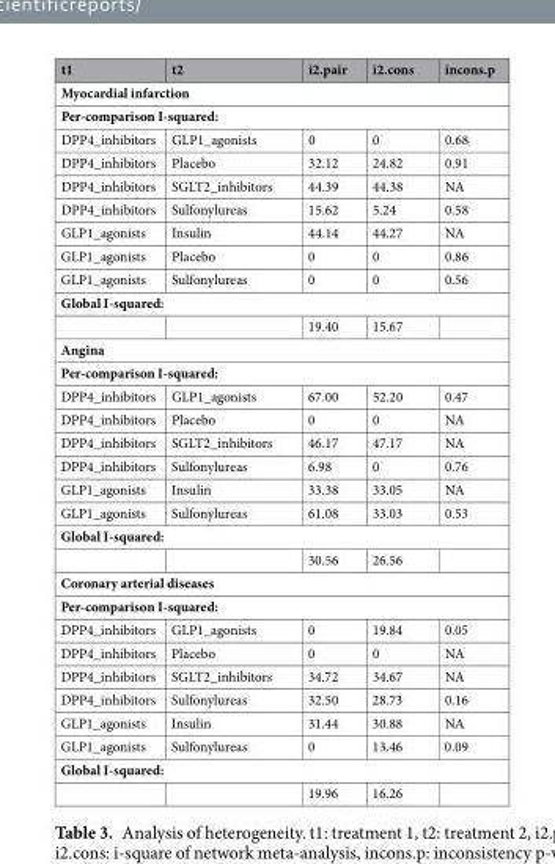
<table><thead><tr><td>t1</td><td>t2</td><td>i2.pair</td><td>i2.cons</td><td>incons.p</td></tr></thead><tbody><tr><td colspan="5">Myocardial infarction</td></tr><tr><td colspan="5">Per-comparison I-squared:</td></tr><tr><td>DPP4_inhibitors</td><td>GLP1_agonists</td><td>0</td><td>0</td><td>0.68</td></tr><tr><td>DPP4_inhibitors</td><td>Placebo</td><td>32.12</td><td>24.82</td><td>0.91</td></tr><tr><td>DPP4_inhibitors</td><td>SGLT2_inhibitors</td><td>44.39</td><td>44.38</td><td>NA</td></tr><tr><td>DPP4_inhibitors</td><td>Sulfonylureas</td><td>15.62</td><td>5.24</td><td>0.58</td></tr><tr><td>GLP1_agonists</td><td>Insulin</td><td>44.14</td><td>44.27</td><td>NA</td></tr><tr><td>GLP1_agonists</td><td>Placebo</td><td>0</td><td>0</td><td>0.86</td></tr><tr><td>GLP1_agonists</td><td>Sulfonylureas</td><td>0</td><td>0</td><td>0.56</td></tr><tr><td colspan="5">Global I-squared:</td></tr><tr><td></td><td></td><td>19.40</td><td>15.67</td><td></td></tr><tr><td colspan="5">Angina</td></tr><tr><td colspan="5">Per-comparison I-squared:</td></tr><tr><td>DPP4_inhibitors</td><td>GLP1_agonists</td><td>67.00</td><td>52.20</td><td>0.47</td></tr><tr><td>DPP4_inhibitors</td><td>Placebo</td><td>0</td><td>0</td><td>NA</td></tr><tr><td>DPP4_inhibitors</td><td>SGLT2_inhibitors</td><td>46.17</td><td>47.17</td><td>NA</td></tr><tr><td>DPP4_inhibitors</td><td>Sulfonylureas</td><td>6.98</td><td>0</td><td>0.76</td></tr><tr><td>GLP1_agonists</td><td>Insulin</td><td>33.38</td><td>33.05</td><td>NA</td></tr><tr><td>GLP1_agonists</td><td>Sulfonylureas</td><td>61.08</td><td>33.03</td><td>0.53</td></tr><tr><td colspan="5">Global I-squared:</td></tr><tr><td></td><td></td><td>30.56</td><td>26.56</td><td></td></tr><tr><td colspan="5">Coronary arterial diseases</td></tr><tr><td colspan="5">Per-comparison I-squared:</td></tr><tr><td>DPP4_inhibitors</td><td>GLP1_agonists</td><td>0</td><td>19.84</td><td>0.05</td></tr><tr><td>DPP4_inhibitors</td><td>Placebo</td><td>0</td><td>0</td><td>NA</td></tr><tr><td>DPP4_inhibitors</td><td>SGLT2_inhibitors</td><td>34.72</td><td>34.67</td><td>NA</td></tr><tr><td>DPP4_inhibitors</td><td>Sulfonylureas</td><td>32.50</td><td>28.73</td><td>0.16</td></tr><tr><td>GLP1_agonists</td><td>Insulin</td><td>31.44</td><td>30.88</td><td>NA</td></tr><tr><td>GLP1_agonists</td><td>Sulfonylureas</td><td>0</td><td>13.46</td><td>0.09</td></tr><tr><td colspan="5">Global I-squared:</td></tr><tr><td></td><td></td><td>19.96</td><td>16.26</td><td></td></tr></tbody></table>